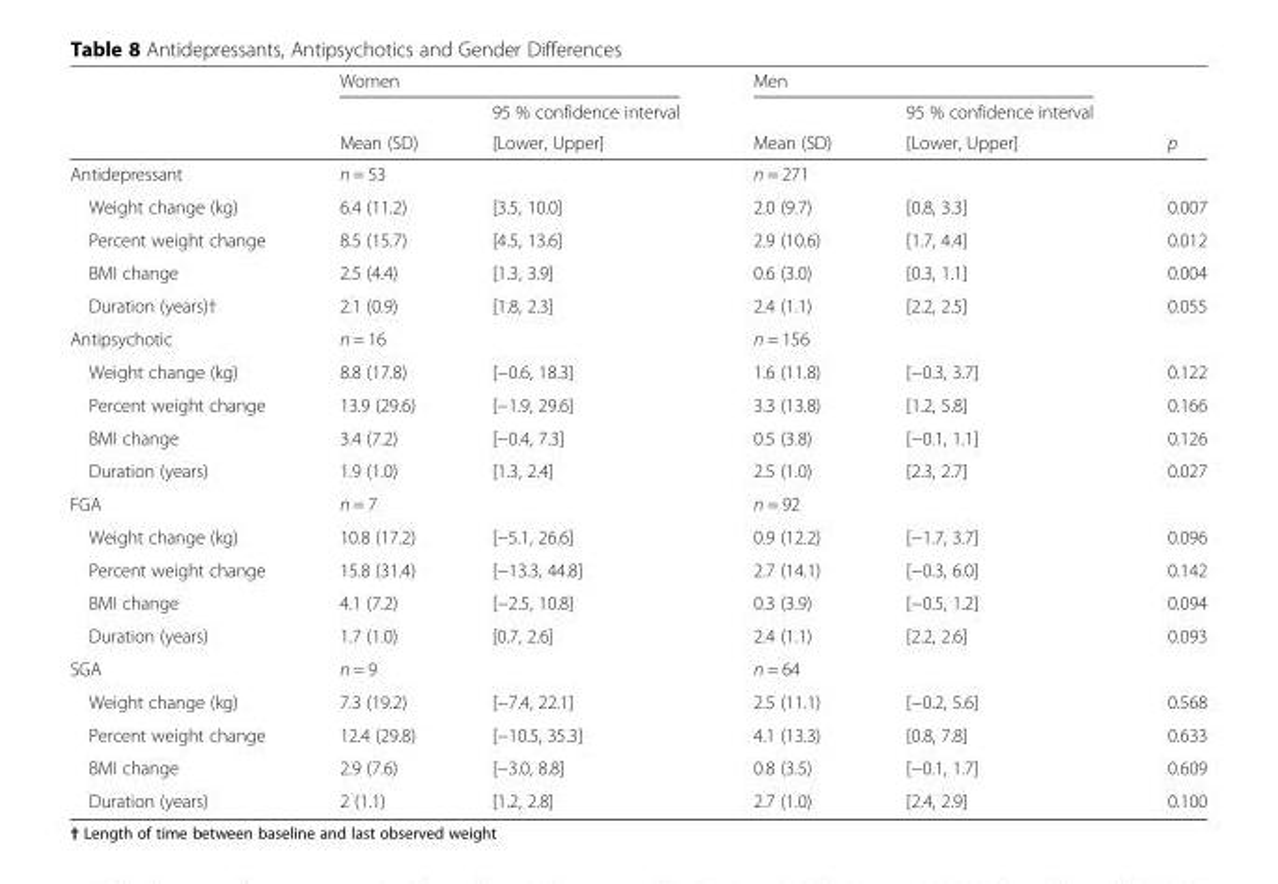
<table><thead><tr><td rowspan="3"></td><td colspan="2">Women</td><td colspan="2">Men</td><td rowspan="3">p</td></tr><tr><td rowspan="2">Mean (SD)</td><td rowspan="2">95 % confidence interval [Lower, Upper]</td><td rowspan="2">Mean (SD)</td><td rowspan="2">95 % confidence interval [Lower, Upper]</td></tr><tr></tr></thead><tbody><tr><td>Antidepressant</td><td colspan="2">n = 53</td><td colspan="2">n = 271</td><td></td></tr><tr><td>Weight change (kg)</td><td>6.4 (11.2)</td><td>[3.5, 10.0]</td><td>2.0 (9.7)</td><td>[0.8, 3.3]</td><td>0.007</td></tr><tr><td>Percent weight change</td><td>8.5 (15.7)</td><td>[4.5, 13.6]</td><td>2.9 (10.6)</td><td>[1.7, 4.4]</td><td>0.012</td></tr><tr><td>BMI change</td><td>2.5 (4.4)</td><td>[1.3, 3.9]</td><td>0.6 (3.0)</td><td>[0.3, 1.1]</td><td>0.004</td></tr><tr><td>Duration (years)†</td><td>2.1 (0.9)</td><td>[1.8, 2.3]</td><td>2.4 (1.1)</td><td>[2.2, 2.5]</td><td>0.055</td></tr><tr><td>Antipsychotic</td><td colspan="2">n = 16</td><td colspan="2">n = 156</td><td></td></tr><tr><td>Weight change (kg)</td><td>8.8 (17.8)</td><td>[−0.6, 18.3]</td><td>1.6 (11.8)</td><td>[−0.3, 3.7]</td><td>0.122</td></tr><tr><td>Percent weight change</td><td>13.9 (29.6)</td><td>[−1.9, 29.6]</td><td>3.3 (13.8)</td><td>[1.2, 5.8]</td><td>0.166</td></tr><tr><td>BMI change</td><td>3.4 (7.2)</td><td>[−0.4, 7.3]</td><td>0.5 (3.8)</td><td>[−0.1, 1.1]</td><td>0.126</td></tr><tr><td>Duration (years)</td><td>1.9 (1.0)</td><td>[1.3, 2.4]</td><td>2.5 (1.0)</td><td>[2.3, 2.7]</td><td>0.027</td></tr><tr><td>FGA</td><td colspan="2">n = 7</td><td colspan="2">n = 92</td><td></td></tr><tr><td>Weight change (kg)</td><td>10.8 (17.2)</td><td>[−5.1, 26.6]</td><td>0.9 (12.2)</td><td>[−1.7, 3.7]</td><td>0.096</td></tr><tr><td>Percent weight change</td><td>15.8 (31.4)</td><td>[−13.3, 44.8]</td><td>2.7 (14.1)</td><td>[−0.3, 6.0]</td><td>0.142</td></tr><tr><td>BMI change</td><td>4.1 (7.2)</td><td>[−2.5, 10.8]</td><td>0.3 (3.9)</td><td>[−0.5, 1.2]</td><td>0.094</td></tr><tr><td>Duration (years)</td><td>1.7 (1.0)</td><td>[0.7, 2.6]</td><td>2.4 (1.1)</td><td>[2.2, 2.6]</td><td>0.093</td></tr><tr><td>SGA</td><td colspan="2">n = 9</td><td colspan="2">n = 64</td><td></td></tr><tr><td>Weight change (kg)</td><td>7.3 (19.2)</td><td>[−7.4, 22.1]</td><td>2.5 (11.1)</td><td>[−0.2, 5.6]</td><td>0.568</td></tr><tr><td>Percent weight change</td><td>12.4 (29.8)</td><td>[−10.5, 35.3]</td><td>4.1 (13.3)</td><td>[0.8, 7.8]</td><td>0.633</td></tr><tr><td>BMI change</td><td>2.9 (7.6)</td><td>[−3.0, 8.8]</td><td>0.8 (3.5)</td><td>[−0.1, 1.7]</td><td>0.609</td></tr><tr><td>Duration (years)</td><td>2 (1.1)</td><td>[1.2, 2.8]</td><td>2.7 (1.0)</td><td>[2.4, 2.9]</td><td>0.100</td></tr></tbody></table>